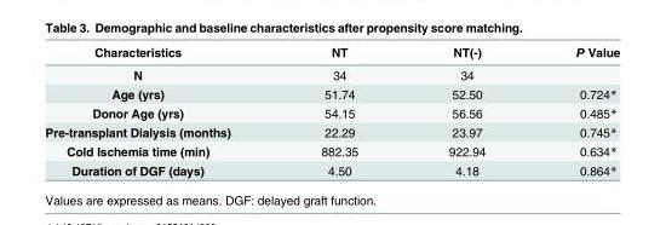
<table><thead><tr><td>Characteristics</td><td>NT</td><td>NT(-)</td><td>P Value</td></tr></thead><tbody><tr><td>N</td><td>34</td><td>34</td><td></td></tr><tr><td>Age (yrs)</td><td>51.74</td><td>52.50</td><td>0.724*</td></tr><tr><td>Donor Age (yrs)</td><td>54.15</td><td>56.56</td><td>0.485*</td></tr><tr><td>Pre-transplant Dialysis (months)</td><td>22.29</td><td>23.97</td><td>0.745*</td></tr><tr><td>Cold Ischemia time (min)</td><td>882.35</td><td>922.94</td><td>0.634*</td></tr><tr><td>Duration of DGF (days)</td><td>4.50</td><td>4.18</td><td>0.864*</td></tr></tbody></table>